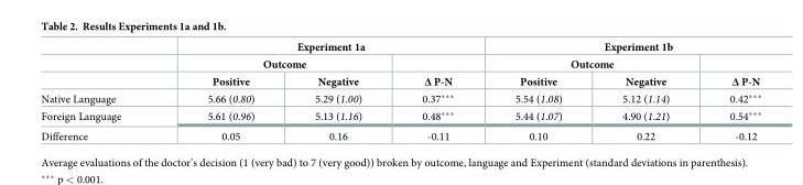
<table><thead><tr><td rowspan="3"></td><td colspan="3">Experiment 1a</td><td colspan="3">Experiment 1b</td></tr><tr><td colspan="2">Outcome</td><td rowspan="2">Δ P-N</td><td colspan="2">Outcome</td><td rowspan="2">Δ P-N</td></tr><tr><td>Positive</td><td>Negative</td><td>Positive</td><td>Negative</td></tr></thead><tbody><tr><td>Native Language</td><td>5.66 (0.80)</td><td>5.29 (1.00)</td><td>0.37***</td><td>5.54 (1.08)</td><td>5.12 (1.14)</td><td>0.42***</td></tr><tr><td>Foreign Language</td><td>5.61 (0.96)</td><td>5.13 (1.16)</td><td>0.48***</td><td>5.44 (1.07)</td><td>4.90 (1.21)</td><td>0.54***</td></tr><tr><td>Difference</td><td>0.05</td><td>0.16</td><td>-0.11</td><td>0.10</td><td>0.22</td><td>-0.12</td></tr></tbody></table>